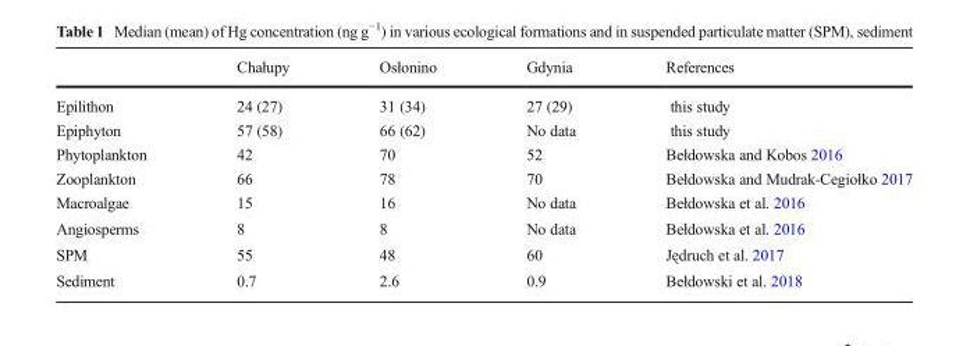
<table><thead><tr><td></td><td>Chałupy</td><td>Osłonino</td><td>Gdynia</td><td>References</td></tr></thead><tbody><tr><td>Epilithon</td><td>24 (27)</td><td>31 (34)</td><td>27 (29)</td><td>this study</td></tr><tr><td>Epiphyton</td><td>57 (58)</td><td>66 (62)</td><td>No data</td><td>this study</td></tr><tr><td>Phytoplankton</td><td>42</td><td>70</td><td>52</td><td>Bełdowska and Kobos 2016</td></tr><tr><td>Zooplankton</td><td>66</td><td>78</td><td>70</td><td>Bełdowska and Mudrak-Cegiołko 2017</td></tr><tr><td>Macroalgae</td><td>15</td><td>16</td><td>No data</td><td>Bełdowska et al. 2016</td></tr><tr><td>Angiosperms</td><td>8</td><td>8</td><td>No data</td><td>Bełdowska et al. 2016</td></tr><tr><td>SPM</td><td>55</td><td>48</td><td>60</td><td>Jędruch et al. 2017</td></tr><tr><td>Sediment</td><td>0.7</td><td>2.6</td><td>0.9</td><td>Bełdowski et al. 2018</td></tr></tbody></table>